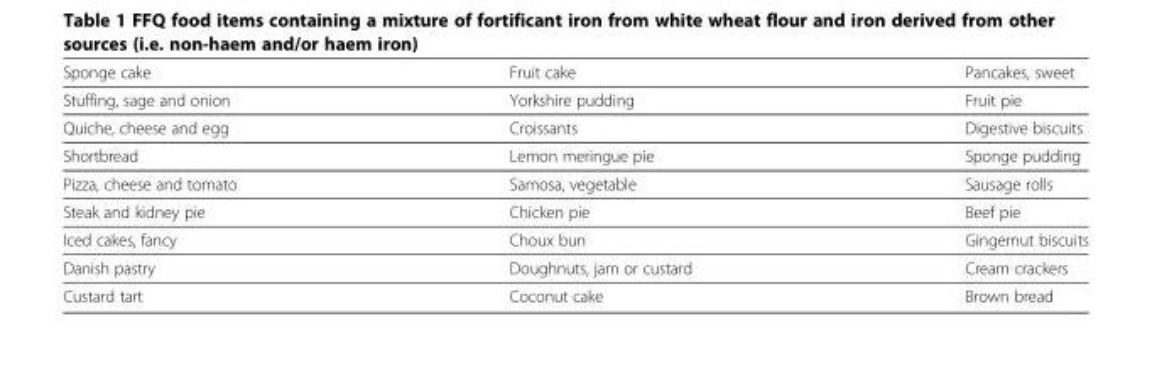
<table><thead><tr><td>Sponge cake</td><td>Fruit cake</td><td>Pancakes, sweet</td></tr></thead><tbody><tr><td>Stuffing, sage and onion</td><td>Yorkshire pudding</td><td>Fruit pie</td></tr><tr><td>Quiche, cheese and egg</td><td>Croissants</td><td>Digestive biscuits</td></tr><tr><td>Shortbread</td><td>Lemon meringue pie</td><td>Sponge pudding</td></tr><tr><td>Pizza, cheese and tomato</td><td>Samosa, vegetable</td><td>Sausage rolls</td></tr><tr><td>Steak and kidney pie</td><td>Chicken pie</td><td>Beef pie</td></tr><tr><td>Iced cakes, fancy</td><td>Choux bun</td><td>Gingernut biscuits</td></tr><tr><td>Danish pastry</td><td>Doughnuts, jam or custard</td><td>Cream crackers</td></tr><tr><td>Custard tart</td><td>Coconut cake</td><td>Brown bread</td></tr></tbody></table>